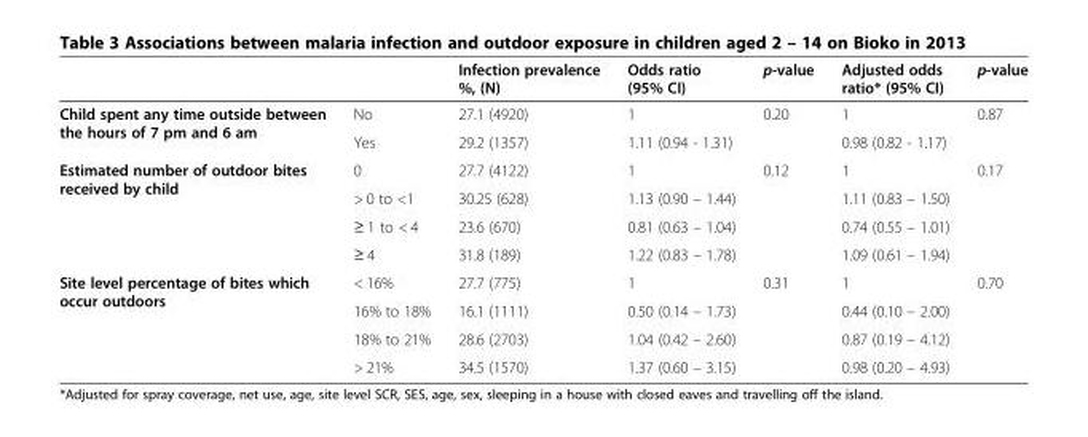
<table><thead><tr><td></td><td></td><td>Infection prevalence %, (N)</td><td>Odds ratio (95% CI)</td><td>p-value</td><td>Adjusted odds ratio* (95% CI)</td><td>p-value</td></tr></thead><tbody><tr><td rowspan="2">Child spent any time outside between the hours of 7 pm and 6 am</td><td>No</td><td>27.1 (4920)</td><td>1</td><td rowspan="2">0.20</td><td>1</td><td rowspan="2">0.87</td></tr><tr><td>Yes</td><td>29.2 (1357)</td><td>1.11 (0.94 - 1.31)</td><td>0.98 (0.82 - 1.17)</td></tr><tr><td rowspan="4">Estimated number of outdoor bites received by child</td><td>0</td><td>27.7 (4122)</td><td>1</td><td rowspan="4">0.12</td><td>1</td><td rowspan="4">0.17</td></tr><tr><td>&gt; 0 to &lt;1</td><td>30.25 (628)</td><td>1.13 (0.90 – 1.44)</td><td>1.11 (0.83 – 1.50)</td></tr><tr><td>≥ 1 to &lt; 4</td><td>23.6 (670)</td><td>0.81 (0.63 – 1.04)</td><td>0.74 (0.55 – 1.01)</td></tr><tr><td>≥ 4</td><td>31.8 (189)</td><td>1.22 (0.83 – 1.78)</td><td>1.09 (0.61 – 1.94)</td></tr><tr><td rowspan="4">Site level percentage of bites which occur outdoors</td><td>&lt; 16%</td><td>27.7 (775)</td><td>1</td><td rowspan="4">0.31</td><td>1</td><td rowspan="4">0.70</td></tr><tr><td>16% to 18%</td><td>16.1 (1111)</td><td>0.50 (0.14 – 1.73)</td><td>0.44 (0.10 – 2.00)</td></tr><tr><td>18% to 21%</td><td>28.6 (2703)</td><td>1.04 (0.42 – 2.60)</td><td>0.87 (0.19 – 4.12)</td></tr><tr><td>&gt; 21%</td><td>34.5 (1570)</td><td>1.37 (0.60 – 3.15)</td><td>0.98 (0.20 – 4.93)</td></tr></tbody></table>